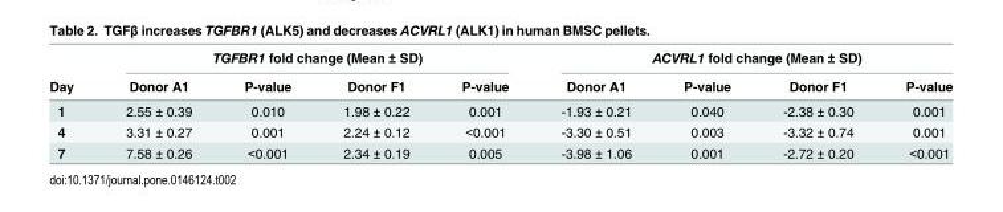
<table><thead><tr><td rowspan="2">Day</td><td colspan="4">TGFBR1 fold change (Mean ± SD)</td><td colspan="4">ACVRL1 fold change (Mean ± SD)</td></tr><tr><td>Donor A1</td><td>P-value</td><td>Donor F1</td><td>P-value</td><td>Donor A1</td><td>P-value</td><td>Donor F1</td><td>P-value</td></tr></thead><tbody><tr><td>1</td><td>2.55 ± 0.39</td><td>0.010</td><td>1.98 ± 0.22</td><td>0.001</td><td>-1.93 ± 0.21</td><td>0.040</td><td>-2.38 ± 0.30</td><td>0.001</td></tr><tr><td>4</td><td>3.31 ± 0.27</td><td>0.001</td><td>2.24 ± 0.12</td><td>&lt;0.001</td><td>-3.30 ± 0.51</td><td>0.003</td><td>-3.32 ± 0.74</td><td>0.001</td></tr><tr><td>7</td><td>7.58 ± 0.26</td><td>&lt;0.001</td><td>2.34 ± 0.19</td><td>0.005</td><td>-3.98 ± 1.06</td><td>0.001</td><td>-2.72 ± 0.20</td><td>&lt;0.001</td></tr></tbody></table>